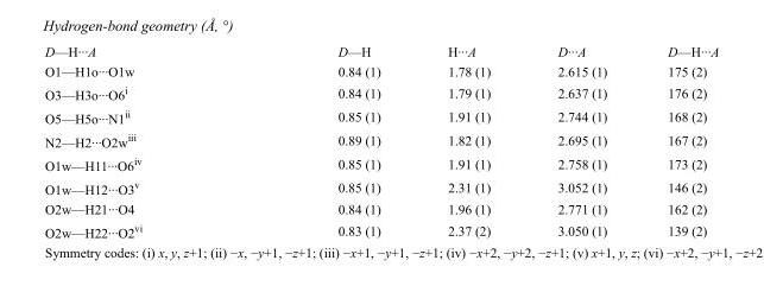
<table><tbody><tr><td>D—H···A</td><td>D—H</td><td>H···A</td><td>D···A</td><td>D—H···A</td></tr><tr><td>O1—H1o···O1w</td><td>0.84 (1)</td><td>1.78 (1)</td><td>2.615 (1)</td><td>175 (2)</td></tr><tr><td>O3—H3o···O6<sup>i</sup></td><td>0.84 (1)</td><td>1.79 (1)</td><td>2.637 (1)</td><td>176 (2)</td></tr><tr><td>O5—H5o···N1<sup>ii</sup></td><td>0.85 (1)</td><td>1.91 (1)</td><td>2.744 (1)</td><td>168 (2)</td></tr><tr><td>N2—H2···O2w<sup>iii</sup></td><td>0.89 (1)</td><td>1.82 (1)</td><td>2.695 (1)</td><td>167 (2)</td></tr><tr><td>O1w—H11···O6<sup>iv</sup></td><td>0.85 (1)</td><td>1.91 (1)</td><td>2.758 (1)</td><td>173 (2)</td></tr><tr><td>O1w—H12···O3<sup>v</sup></td><td>0.85 (1)</td><td>2.31 (1)</td><td>3.052 (1)</td><td>146 (2)</td></tr><tr><td>O2w—H21···O4</td><td>0.84 (1)</td><td>1.96 (1)</td><td>2.771 (1)</td><td>162 (2)</td></tr><tr><td>O2w—H22···O2<sup>vi</sup></td><td>0.83 (1)</td><td>2.37 (2)</td><td>3.050 (1)</td><td>139 (2)</td></tr></tbody></table>